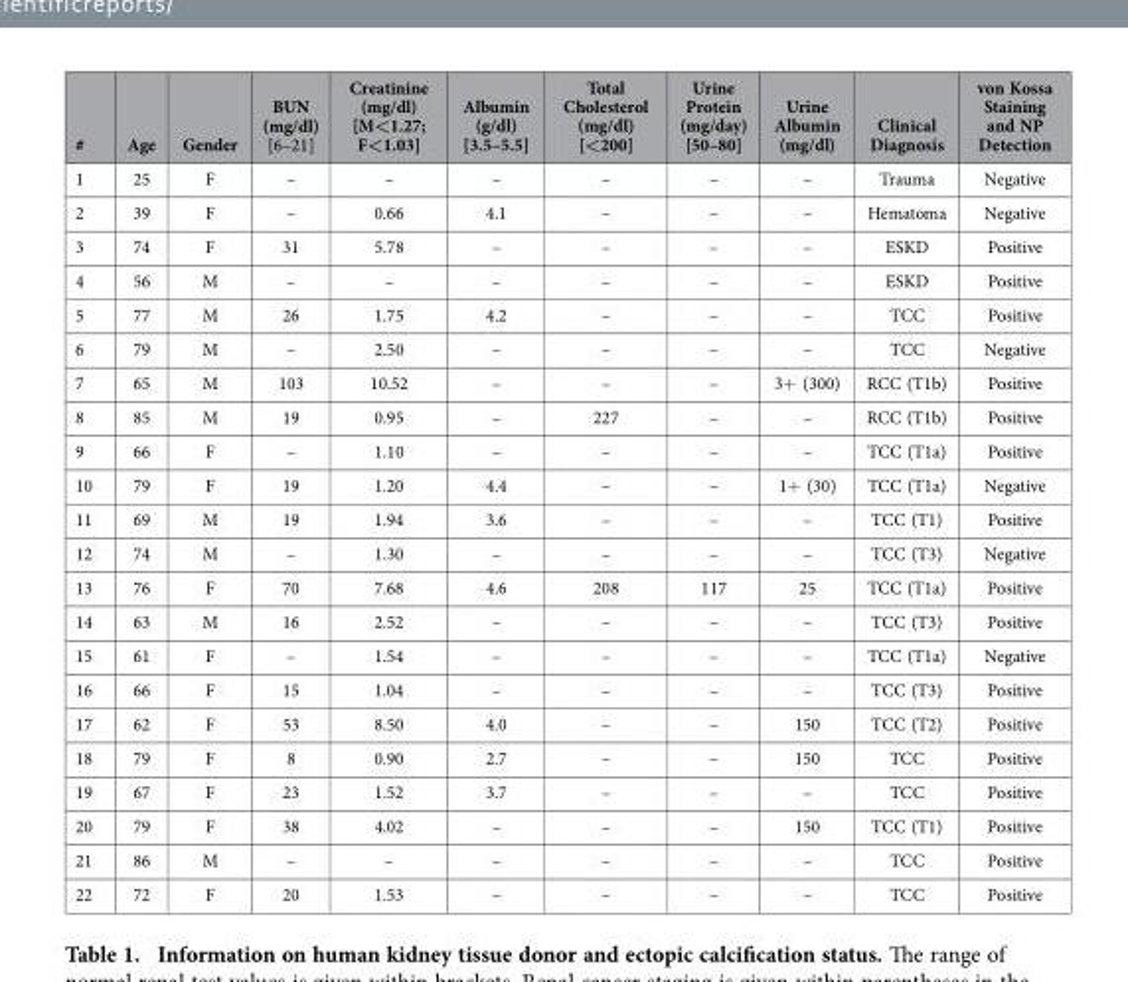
<table><thead><tr><td>#</td><td>Age</td><td>Gender</td><td>BUN (mg/dl) [6–21]</td><td>Creatinine (mg/dl) [M&lt;1.27; F&lt;1.03]</td><td>Albumin (g/dl) [3.5–5.5]</td><td>Total Cholesterol (mg/dl) [&lt;200]</td><td>Urine Protein (mg/day) [50–80]</td><td>Urine Albumin (mg/dl)</td><td>Clinical Diagnosis</td><td>von Kossa Staining and NP Detection</td></tr></thead><tbody><tr><td>1</td><td>25</td><td>F</td><td>–</td><td>–</td><td>–</td><td>–</td><td>–</td><td>–</td><td>Trauma</td><td>Negative</td></tr><tr><td>2</td><td>39</td><td>F</td><td>–</td><td>0.66</td><td>4.1</td><td>–</td><td>–</td><td>–</td><td>Hematoma</td><td>Negative</td></tr><tr><td>3</td><td>74</td><td>F</td><td>31</td><td>5.78</td><td>–</td><td>–</td><td>–</td><td>–</td><td>ESKD</td><td>Positive</td></tr><tr><td>4</td><td>56</td><td>M</td><td>–</td><td>–</td><td>–</td><td>–</td><td>–</td><td>–</td><td>ESKD</td><td>Positive</td></tr><tr><td>5</td><td>77</td><td>M</td><td>26</td><td>1.75</td><td>4.2</td><td>–</td><td>–</td><td>–</td><td>TCC</td><td>Positive</td></tr><tr><td>6</td><td>79</td><td>M</td><td>–</td><td>2.50</td><td>–</td><td>–</td><td>–</td><td>–</td><td>TCC</td><td>Negative</td></tr><tr><td>7</td><td>65</td><td>M</td><td>103</td><td>10.52</td><td>–</td><td>–</td><td>–</td><td>3+ (300)</td><td>RCC (T1b)</td><td>Positive</td></tr><tr><td>8</td><td>85</td><td>M</td><td>19</td><td>0.95</td><td>–</td><td>227</td><td>–</td><td>–</td><td>RCC (T1b)</td><td>Positive</td></tr><tr><td>9</td><td>66</td><td>F</td><td>–</td><td>1.10</td><td>–</td><td>–</td><td>–</td><td>–</td><td>TCC (T1a)</td><td>Positive</td></tr><tr><td>10</td><td>79</td><td>F</td><td>19</td><td>1.20</td><td>4.4</td><td>–</td><td>–</td><td>1+ (30)</td><td>TCC (T1a)</td><td>Negative</td></tr><tr><td>11</td><td>69</td><td>M</td><td>19</td><td>1.94</td><td>3.6</td><td>–</td><td>–</td><td>–</td><td>TCC (T1)</td><td>Positive</td></tr><tr><td>12</td><td>74</td><td>M</td><td>–</td><td>1.30</td><td>–</td><td>–</td><td>–</td><td>–</td><td>TCC (T3)</td><td>Negative</td></tr><tr><td>13</td><td>76</td><td>F</td><td>70</td><td>7.68</td><td>4.6</td><td>208</td><td>117</td><td>25</td><td>TCC (T1a)</td><td>Positive</td></tr><tr><td>14</td><td>63</td><td>M</td><td>16</td><td>2.52</td><td>–</td><td>–</td><td>–</td><td>–</td><td>TCC (T3)</td><td>Positive</td></tr><tr><td>15</td><td>61</td><td>F</td><td>–</td><td>1.54</td><td>–</td><td>–</td><td>–</td><td>–</td><td>TCC (T1a)</td><td>Negative</td></tr><tr><td>16</td><td>66</td><td>F</td><td>15</td><td>1.04</td><td>–</td><td>–</td><td>–</td><td>–</td><td>TCC (T3)</td><td>Positive</td></tr><tr><td>17</td><td>62</td><td>F</td><td>53</td><td>8.50</td><td>4.0</td><td>–</td><td>–</td><td>150</td><td>TCC (T2)</td><td>Positive</td></tr><tr><td>18</td><td>79</td><td>F</td><td>8</td><td>0.90</td><td>2.7</td><td>–</td><td>–</td><td>150</td><td>TCC</td><td>Positive</td></tr><tr><td>19</td><td>67</td><td>F</td><td>23</td><td>1.52</td><td>3.7</td><td>–</td><td>–</td><td>–</td><td>TCC</td><td>Positive</td></tr><tr><td>20</td><td>79</td><td>F</td><td>38</td><td>4.02</td><td>–</td><td>–</td><td>–</td><td>150</td><td>TCC (T1)</td><td>Positive</td></tr><tr><td>21</td><td>86</td><td>M</td><td>–</td><td>–</td><td>–</td><td>–</td><td>–</td><td>–</td><td>TCC</td><td>Positive</td></tr><tr><td>22</td><td>72</td><td>F</td><td>20</td><td>1.53</td><td>–</td><td>–</td><td>–</td><td>–</td><td>TCC</td><td>Positive</td></tr></tbody></table>